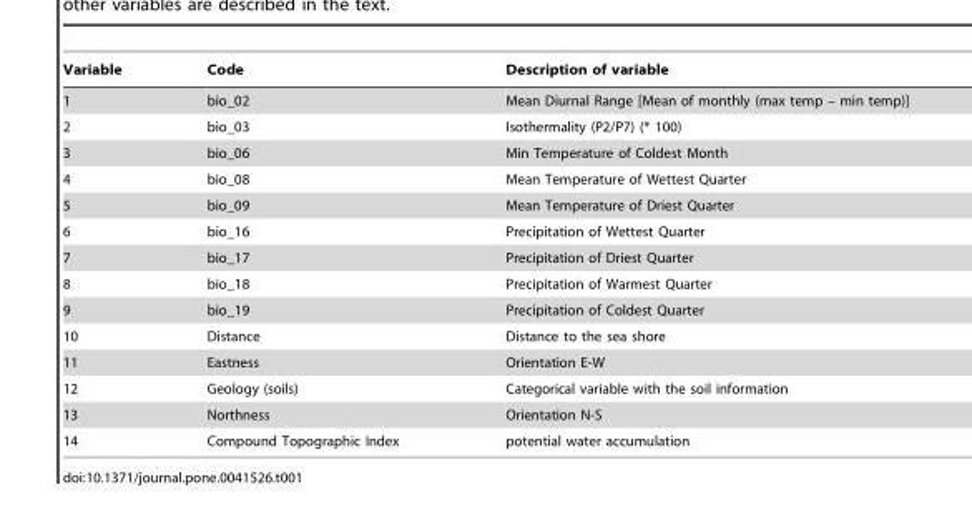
<table><thead><tr><td>Variable</td><td>Code</td><td>Description of variable</td></tr></thead><tbody><tr><td>1</td><td>bio_02</td><td>Mean Diurnal Range [Mean of monthly (max temp – min temp)]</td></tr><tr><td>2</td><td>bio_03</td><td>Isothermality (P2/P7) (* 100)</td></tr><tr><td>3</td><td>bio_06</td><td>Min Temperature of Coldest Month</td></tr><tr><td>4</td><td>bio_08</td><td>Mean Temperature of Wettest Quarter</td></tr><tr><td>5</td><td>bio_09</td><td>Mean Temperature of Driest Quarter</td></tr><tr><td>6</td><td>bio_16</td><td>Precipitation of Wettest Quarter</td></tr><tr><td>7</td><td>bio_17</td><td>Precipitation of Driest Quarter</td></tr><tr><td>8</td><td>bio_18</td><td>Precipitation of Warmest Quarter</td></tr><tr><td>9</td><td>bio_19</td><td>Precipitation of Coldest Quarter</td></tr><tr><td>10</td><td>Distance</td><td>Distance to the sea shore</td></tr><tr><td>11</td><td>Eastness</td><td>Orientation E-W</td></tr><tr><td>12</td><td>Geology (soils)</td><td>Categorical variable with the soil information</td></tr><tr><td>13</td><td>Northness</td><td>Orientation N-S</td></tr><tr><td>14</td><td>Compound Topographic Index</td><td>potential water accumulation</td></tr></tbody></table>